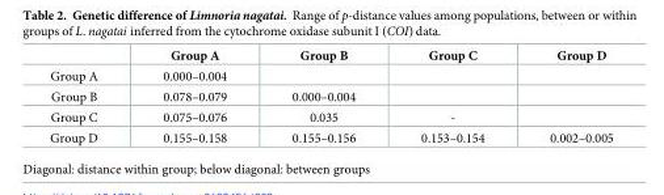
<table><thead><tr><td></td><td>Group A</td><td>Group B</td><td>Group C</td><td>Group D</td></tr></thead><tbody><tr><td>Group A</td><td>0.000–0.004</td><td></td><td></td><td></td></tr><tr><td>Group B</td><td>0.078–0.079</td><td>0.000–0.004</td><td></td><td></td></tr><tr><td>Group C</td><td>0.075–0.076</td><td>0.035</td><td>-</td><td></td></tr><tr><td>Group D</td><td>0.155–0.158</td><td>0.155–0.156</td><td>0.153–0.154</td><td>0.002–0.005</td></tr></tbody></table>